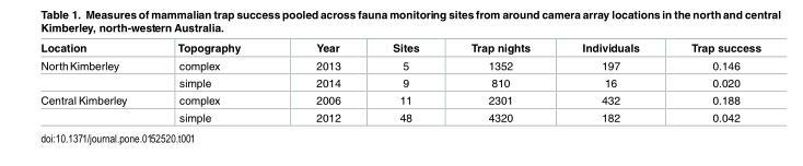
<table><thead><tr><td>Location</td><td>Topography</td><td>Year</td><td>Sites</td><td>Trap nights</td><td>Individuals</td><td>Trap success</td></tr></thead><tbody><tr><td rowspan="2">North Kimberley</td><td>complex</td><td>2013</td><td>5</td><td>1352</td><td>197</td><td>0.146</td></tr><tr><td>simple</td><td>2014</td><td>9</td><td>810</td><td>16</td><td>0.020</td></tr><tr><td rowspan="2">Central Kimberley</td><td>complex</td><td>2006</td><td>11</td><td>2301</td><td>432</td><td>0.188</td></tr><tr><td>simple</td><td>2012</td><td>48</td><td>4320</td><td>182</td><td>0.042</td></tr></tbody></table>